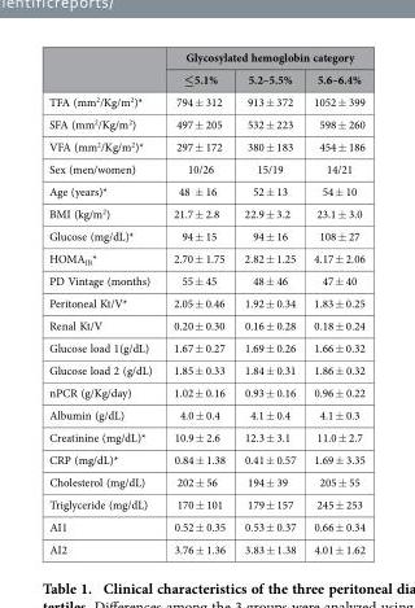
<table><thead><tr><td rowspan="2"></td><td colspan="3">Glycosylated hemoglobin category</td></tr><tr><td>≤5.1%</td><td>5.2–5.5%</td><td>5.6–6.4%</td></tr></thead><tbody><tr><td>TFA (mm<sup>2</sup>/Kg/m<sup>2</sup>)*</td><td>794 ± 312</td><td>913 ± 372</td><td>1052 ± 399</td></tr><tr><td>SFA (mm<sup>2</sup>/Kg/m<sup>2</sup>)</td><td>497 ± 205</td><td>532 ± 223</td><td>598 ± 260</td></tr><tr><td>VFA (mm<sup>2</sup>/Kg/m<sup>2</sup>)*</td><td>297 ± 172</td><td>380 ± 183</td><td>454 ± 186</td></tr><tr><td>Sex (men/women)</td><td>10/26</td><td>15/19</td><td>14/21</td></tr><tr><td>Age (years)*</td><td>48 ± 16</td><td>52 ± 13</td><td>54 ± 10</td></tr><tr><td>BMI (kg/m<sup>2</sup>)</td><td>21.7 ± 2.8</td><td>22.9 ± 3.2</td><td>23.1 ± 3.0</td></tr><tr><td>Glucose (mg/dL)*</td><td>94 ± 15</td><td>94 ± 16</td><td>108 ± 27</td></tr><tr><td>HOMA<sub>IR</sub>*</td><td>2.70 ± 1.75</td><td>2.82 ± 1.25</td><td>4.17 ± 2.06</td></tr><tr><td>PD Vintage (months)</td><td>55 ± 45</td><td>48 ± 46</td><td>47 ± 40</td></tr><tr><td>Peritoneal Kt/V*</td><td>2.05 ± 0.46</td><td>1.92 ± 0.34</td><td>1.83 ± 0.25</td></tr><tr><td>Renal Kt/V</td><td>0.20 ± 0.30</td><td>0.16 ± 0.28</td><td>0.18 ± 0.24</td></tr><tr><td>Glucose load 1(g/dL)</td><td>1.67 ± 0.27</td><td>1.69 ± 0.26</td><td>1.66 ± 0.32</td></tr><tr><td>Glucose load 2 (g/dL)</td><td>1.85 ± 0.33</td><td>1.84 ± 0.31</td><td>1.86 ± 0.32</td></tr><tr><td>nPCR (g/Kg/day)</td><td>1.02 ± 0.16</td><td>0.93 ± 0.16</td><td>0.96 ± 0.22</td></tr><tr><td>Albumin (g/dL)</td><td>4.0 ± 0.4</td><td>4.1 ± 0.4</td><td>4.1 ± 0.3</td></tr><tr><td>Creatinine (mg/dL)*</td><td>10.9 ± 2.6</td><td>12.3 ± 3.1</td><td>11.0 ± 2.7</td></tr><tr><td>CRP (mg/dL)*</td><td>0.84 ± 1.38</td><td>0.41 ± 0.57</td><td>1.69 ± 3.35</td></tr><tr><td>Cholesterol (mg/dL)</td><td>202 ± 56</td><td>194 ± 39</td><td>205 ± 55</td></tr><tr><td>Triglyceride (mg/dL)</td><td>170 ± 101</td><td>179 ± 157</td><td>245 ± 253</td></tr><tr><td>AI1</td><td>0.52 ± 0.35</td><td>0.53 ± 0.37</td><td>0.66 ± 0.34</td></tr><tr><td>AI2</td><td>3.76 ± 1.36</td><td>3.83 ± 1.38</td><td>4.01 ± 1.62</td></tr></tbody></table>